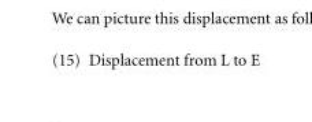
<table><tbody><tr><td>(15)</td><td>Displacement from L to E</td></tr></tbody></table>